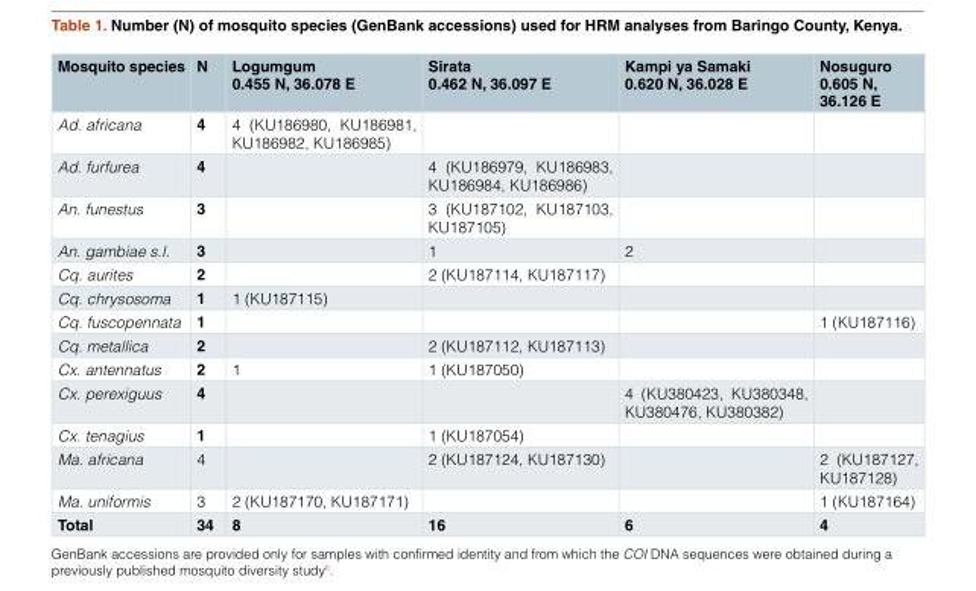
<table><thead><tr><td>Mosquito species</td><td>N</td><td>Logumgum 0.455 N, 36.078 E</td><td>Sirata 0.462 N, 36.097 E</td><td>Kampi ya Samaki 0.620 N, 36.028 E</td><td>Nosuguro 0.605 N, 36.126 E</td></tr></thead><tbody><tr><td>Ad. africana</td><td>4</td><td>4 (KU186980, KU186981, KU186982, KU186985)</td><td></td><td></td><td></td></tr><tr><td>Ad. furfurea</td><td>4</td><td></td><td>4 (KU186979, KU186983, KU186984, KU186986)</td><td></td><td></td></tr><tr><td>An. funestus</td><td>3</td><td></td><td>3 (KU187102, KU187103, KU187105)</td><td></td><td></td></tr><tr><td>An. gambiae s.l.</td><td>3</td><td></td><td>1</td><td>2</td><td></td></tr><tr><td>Cq. aurites</td><td>2</td><td></td><td>2 (KU187114, KU187117)</td><td></td><td></td></tr><tr><td>Cq. chrysosoma</td><td>1</td><td>1 (KU187115)</td><td></td><td></td><td></td></tr><tr><td>Cq. fuscopennata</td><td>1</td><td></td><td></td><td></td><td>1 (KU187116)</td></tr><tr><td>Cq. metallica</td><td>2</td><td></td><td>2 (KU187112, KU187113)</td><td></td><td></td></tr><tr><td>Cx. antennatus</td><td>2</td><td>1</td><td>1 (KU187050)</td><td></td><td></td></tr><tr><td>Cx. perexiguus</td><td>4</td><td></td><td></td><td>4 (KU380423, KU380348, KU380476, KU380382)</td><td></td></tr><tr><td>Cx. tenagius</td><td>1</td><td></td><td>1 (KU187054)</td><td></td><td></td></tr><tr><td>Ma. africana</td><td>4</td><td></td><td>2 (KU187124, KU187130)</td><td></td><td>2 (KU187127, KU187128)</td></tr><tr><td>Ma. uniformis</td><td>3</td><td>2 (KU187170, KU187171)</td><td></td><td></td><td>1 (KU187164)</td></tr><tr><td>Total</td><td>34</td><td>8</td><td>16</td><td>6</td><td>4</td></tr></tbody></table>